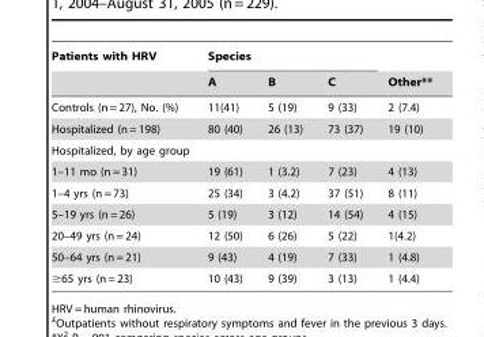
<table><thead><tr><td rowspan="2">Patients with HRV</td><td colspan="3">Species</td><td rowspan="2">Other**</td></tr><tr><td>A</td><td>B</td><td>C</td></tr></thead><tbody><tr><td>Controls (n = 27), No. (%)</td><td>11(41)</td><td>5 (19)</td><td>9 (33)</td><td>2 (7.4)</td></tr><tr><td>Hospitalized (n = 198)</td><td>80 (40)</td><td>26 (13)</td><td>73 (37)</td><td>19 (10)</td></tr><tr><td colspan="5">Hospitalized, by age group</td></tr><tr><td>1–11 mo (n = 31)</td><td>19 (61)</td><td>1 (3.2)</td><td>7 (23)</td><td>4 (13)</td></tr><tr><td>1–4 yrs (n = 73)</td><td>25 (34)</td><td>3 (4.2)</td><td>37 (51)</td><td>8 (11)</td></tr><tr><td>5–19 yrs (n = 26)</td><td>5 (19)</td><td>3 (12)</td><td>14 (54)</td><td>4 (15)</td></tr><tr><td>20–49 yrs (n = 24)</td><td>12 (50)</td><td>6 (26)</td><td>5 (22)</td><td>1(4.2)</td></tr><tr><td>50–64 yrs (n = 21)</td><td>9 (43)</td><td>4 (19)</td><td>7 (33)</td><td>1 (4.8)</td></tr><tr><td>≥65 yrs (n = 23)</td><td>10 (43)</td><td>9 (39)</td><td>3 (13)</td><td>1 (4.4)</td></tr></tbody></table>